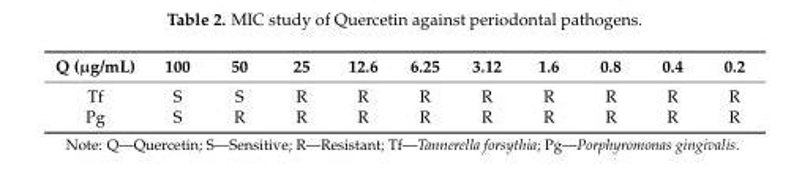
<table><thead><tr><td>Q (µg/mL)</td><td>100</td><td>50</td><td>25</td><td>12.6</td><td>6.25</td><td>3.12</td><td>1.6</td><td>0.8</td><td>0.4</td><td>0.2</td></tr></thead><tbody><tr><td>Tf</td><td>S</td><td>S</td><td>R</td><td>R</td><td>R</td><td>R</td><td>R</td><td>R</td><td>R</td><td>R</td></tr><tr><td>Pg</td><td>S</td><td>R</td><td>R</td><td>R</td><td>R</td><td>R</td><td>R</td><td>R</td><td>R</td><td>R</td></tr></tbody></table>